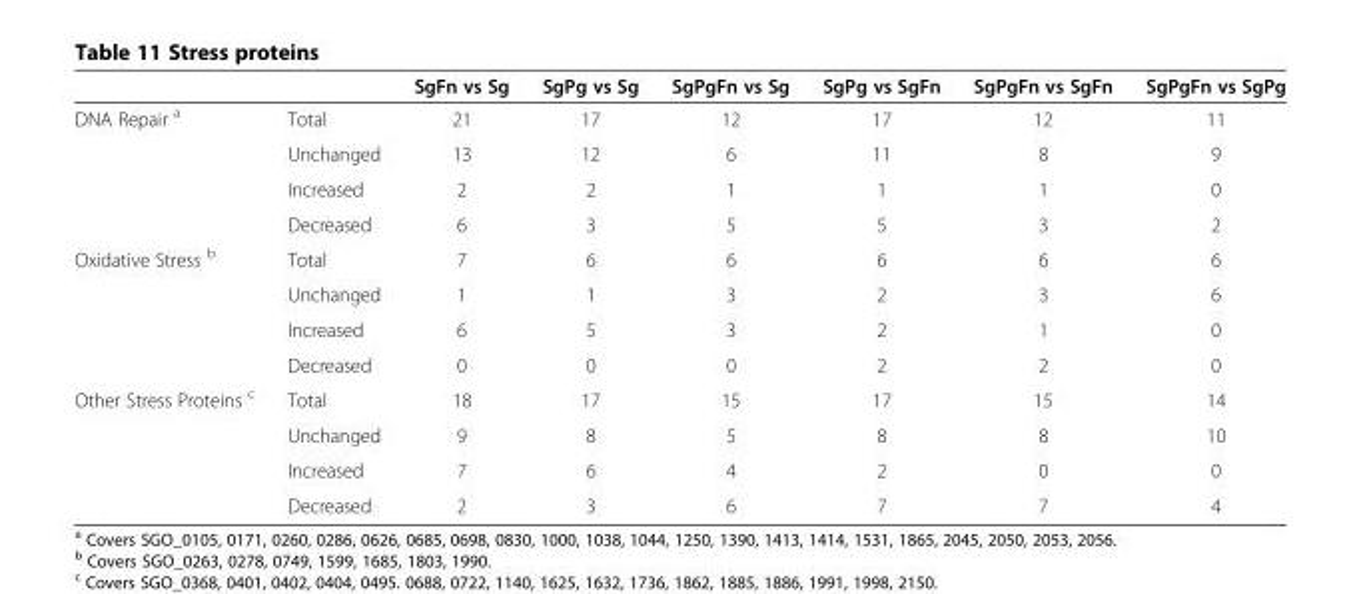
<table><thead><tr><td></td><td></td><td>SgFn vs Sg</td><td>SgPg vs Sg</td><td>SgPgFn vs Sg</td><td>SgPg vs SgFn</td><td>SgPgFn vs SgFn</td><td>SgPgFn vs SgPg</td></tr></thead><tbody><tr><td rowspan="4">DNA Repair <sup>a</sup></td><td>Total</td><td>21</td><td>17</td><td>12</td><td>17</td><td>12</td><td>11</td></tr><tr><td>Unchanged</td><td>13</td><td>12</td><td>6</td><td>11</td><td>8</td><td>9</td></tr><tr><td>Increased</td><td>2</td><td>2</td><td>1</td><td>1</td><td>1</td><td>0</td></tr><tr><td>Decreased</td><td>6</td><td>3</td><td>5</td><td>5</td><td>3</td><td>2</td></tr><tr><td rowspan="4">Oxidative Stress <sup>b</sup></td><td>Total</td><td>7</td><td>6</td><td>6</td><td>6</td><td>6</td><td>6</td></tr><tr><td>Unchanged</td><td>1</td><td>1</td><td>3</td><td>2</td><td>3</td><td>6</td></tr><tr><td>Increased</td><td>6</td><td>5</td><td>3</td><td>2</td><td>1</td><td>0</td></tr><tr><td>Decreased</td><td>0</td><td>0</td><td>0</td><td>2</td><td>2</td><td>0</td></tr><tr><td rowspan="4">Other Stress Proteins <sup>c</sup></td><td>Total</td><td>18</td><td>17</td><td>15</td><td>17</td><td>15</td><td>14</td></tr><tr><td>Unchanged</td><td>9</td><td>8</td><td>5</td><td>8</td><td>8</td><td>10</td></tr><tr><td>Increased</td><td>7</td><td>6</td><td>4</td><td>2</td><td>0</td><td>0</td></tr><tr><td>Decreased</td><td>2</td><td>3</td><td>6</td><td>7</td><td>7</td><td>4</td></tr></tbody></table>